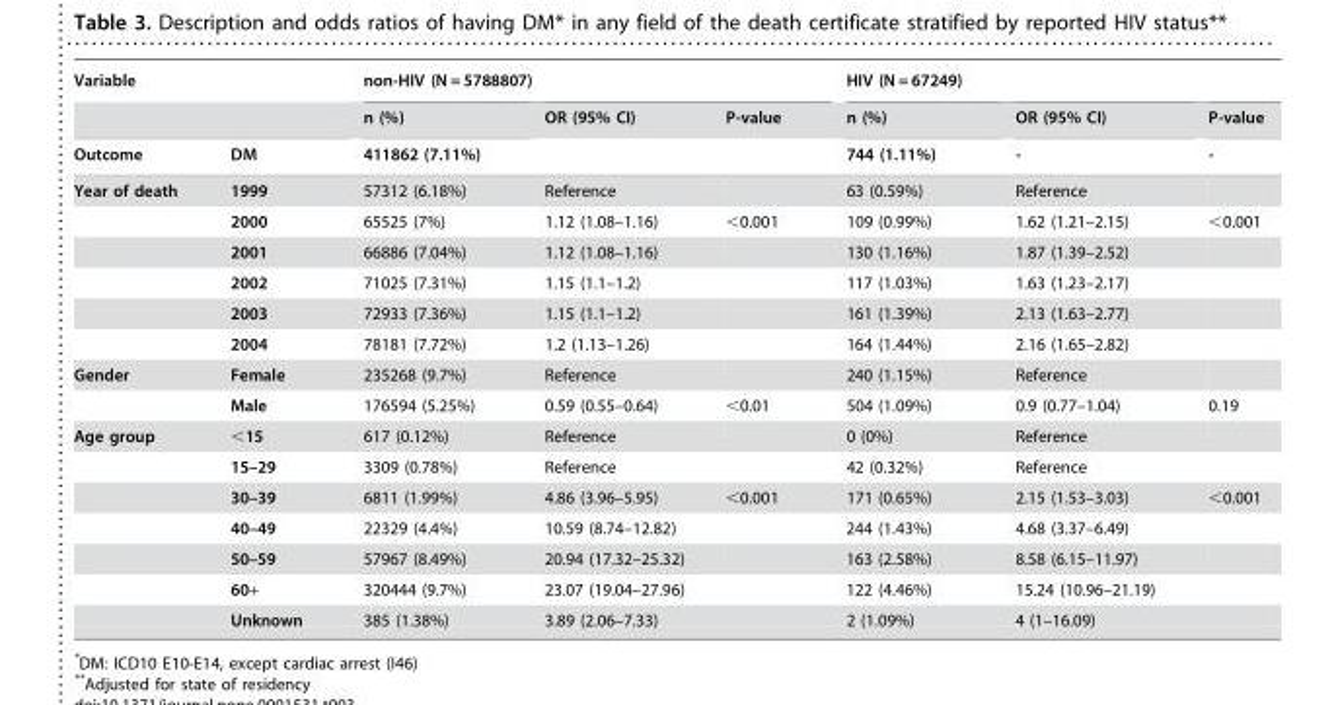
<table><thead><tr><td colspan="2">Variable</td><td colspan="3">non-HIV (N = 5788807)</td><td colspan="3">HIV (N = 67249)</td></tr><tr><td rowspan="2">Outcome</td><td rowspan="2">DM</td><td rowspan="2">n (%) 411862 (7.11%)</td><td rowspan="2">OR (95% CI)</td><td rowspan="2">P-value</td><td rowspan="2">n (%) 744 (1.11%)</td><td rowspan="2">OR (95% CI) -</td><td rowspan="2">P-value -</td></tr><tr></tr></thead><tbody><tr><td rowspan="6">Year of death</td><td>1999</td><td>57312 (6.18%)</td><td>Reference</td><td></td><td>63 (0.59%)</td><td>Reference</td><td></td></tr><tr><td>2000</td><td>65525 (7%)</td><td>1.12 (1.08–1.16)</td><td>&lt;0.001</td><td>109 (0.99%)</td><td>1.62 (1.21–2.15)</td><td>&lt;0.001</td></tr><tr><td>2001</td><td>66886 (7.04%)</td><td>1.12 (1.08–1.16)</td><td></td><td>130 (1.16%)</td><td>1.87 (1.39–2.52)</td><td></td></tr><tr><td>2002</td><td>71025 (7.31%)</td><td>1.15 (1.1–1.2)</td><td></td><td>117 (1.03%)</td><td>1.63 (1.23–2.17)</td><td></td></tr><tr><td>2003</td><td>72933 (7.36%)</td><td>1.15 (1.1–1.2)</td><td></td><td>161 (1.39%)</td><td>2.13 (1.63–2.77)</td><td></td></tr><tr><td>2004</td><td>78181 (7.72%)</td><td>1.2 (1.13–1.26)</td><td></td><td>164 (1.44%)</td><td>2.16 (1.65–2.82)</td><td></td></tr><tr><td rowspan="2">Gender</td><td>Female</td><td>235268 (9.7%)</td><td>Reference</td><td></td><td>240 (1.15%)</td><td>Reference</td><td></td></tr><tr><td>Male</td><td>176594 (5.25%)</td><td>0.59 (0.55–0.64)</td><td>&lt;0.01</td><td>504 (1.09%)</td><td>0.9 (0.77–1.04)</td><td>0.19</td></tr><tr><td rowspan="7">Age group</td><td>&lt;15</td><td>617 (0.12%)</td><td>Reference</td><td></td><td>0 (0%)</td><td>Reference</td><td></td></tr><tr><td>15–29</td><td>3309 (0.78%)</td><td>Reference</td><td></td><td>42 (0.32%)</td><td>Reference</td><td></td></tr><tr><td>30–39</td><td>6811 (1.99%)</td><td>4.86 (3.96–5.95)</td><td>&lt;0.001</td><td>171 (0.65%)</td><td>2.15 (1.53–3.03)</td><td>&lt;0.001</td></tr><tr><td>40–49</td><td>22329 (4.4%)</td><td>10.59 (8.74–12.82)</td><td></td><td>244 (1.43%)</td><td>4.68 (3.37–6.49)</td><td></td></tr><tr><td>50–59</td><td>57967 (8.49%)</td><td>20.94 (17.32–25.32)</td><td></td><td>163 (2.58%)</td><td>8.58 (6.15–11.97)</td><td></td></tr><tr><td>60+</td><td>320444 (9.7%)</td><td>23.07 (19.04–27.96)</td><td></td><td>122 (4.46%)</td><td>15.24 (10.96–21.19)</td><td></td></tr><tr><td>Unknown</td><td>385 (1.38%)</td><td>3.89 (2.06–7.33)</td><td></td><td>2 (1.09%)</td><td>4 (1–16.09)</td><td></td></tr></tbody></table>